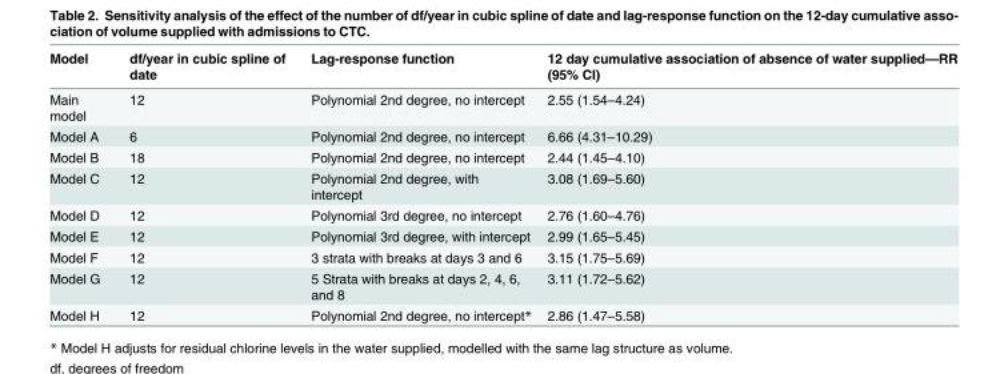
<table><thead><tr><td>Model</td><td>df/year in cubic spline of date</td><td>Lag-response function</td><td>12 day cumulative association of absence of water supplied—RR (95% CI)</td></tr></thead><tbody><tr><td>Main model</td><td>12</td><td>Polynomial 2nd degree, no intercept</td><td>2.55 (1.54–4.24)</td></tr><tr><td>Model A</td><td>6</td><td>Polynomial 2nd degree, no intercept</td><td>6.66 (4.31–10.29)</td></tr><tr><td>Model B</td><td>18</td><td>Polynomial 2nd degree, no intercept</td><td>2.44 (1.45–4.10)</td></tr><tr><td>Model C</td><td>12</td><td>Polynomial 2nd degree, with intercept</td><td>3.08 (1.69–5.60)</td></tr><tr><td>Model D</td><td>12</td><td>Polynomial 3rd degree, no intercept</td><td>2.76 (1.60–4.76)</td></tr><tr><td>Model E</td><td>12</td><td>Polynomial 3rd degree, with intercept</td><td>2.99 (1.65–5.45)</td></tr><tr><td>Model F</td><td>12</td><td>3 strata with breaks at days 3 and 6</td><td>3.15 (1.75–5.69)</td></tr><tr><td>Model G</td><td>12</td><td>5 Strata with breaks at days 2, 4, 6, and 8</td><td>3.11 (1.72–5.62)</td></tr><tr><td>Model H</td><td>12</td><td>Polynomial 2nd degree, no intercept*</td><td>2.86 (1.47–5.58)</td></tr></tbody></table>